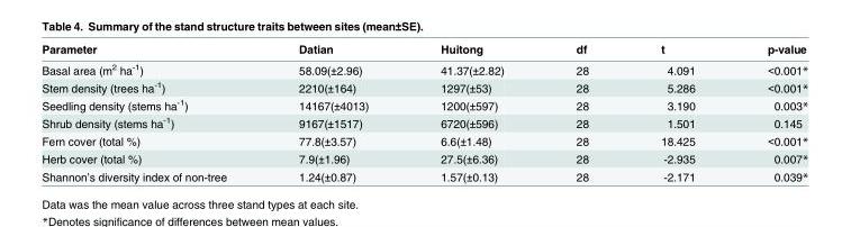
<table><thead><tr><td>Parameter</td><td>Datian</td><td>Huitong</td><td>df</td><td>t</td><td>p-value</td></tr></thead><tbody><tr><td>Basal area (m<sup>2</sup> ha<sup>-1</sup>)</td><td>58.09(±2.96)</td><td>41.37(±2.82)</td><td>28</td><td>4.091</td><td>&lt;0.001*</td></tr><tr><td>Stem density (trees ha<sup>-1</sup>)</td><td>2210(±164)</td><td>1297(±53)</td><td>28</td><td>5.286</td><td>&lt;0.001*</td></tr><tr><td>Seedling density (stems ha<sup>-1</sup>)</td><td>14167(±4013)</td><td>1200(±597)</td><td>28</td><td>3.190</td><td>0.003*</td></tr><tr><td>Shrub density (stems ha<sup>-1</sup>)</td><td>9167(±1517)</td><td>6720(±596)</td><td>28</td><td>1.501</td><td>0.145</td></tr><tr><td>Fern cover (total %)</td><td>77.8(±3.57)</td><td>6.6(±1.48)</td><td>28</td><td>18.425</td><td>&lt;0.001*</td></tr><tr><td>Herb cover (total %)</td><td>7.9(±1.96)</td><td>27.5(±6.36)</td><td>28</td><td>-2.935</td><td>0.007*</td></tr><tr><td>Shannon’s diversity index of non-tree</td><td>1.24(±0.87)</td><td>1.57(±0.13)</td><td>28</td><td>-2.171</td><td>0.039*</td></tr></tbody></table>